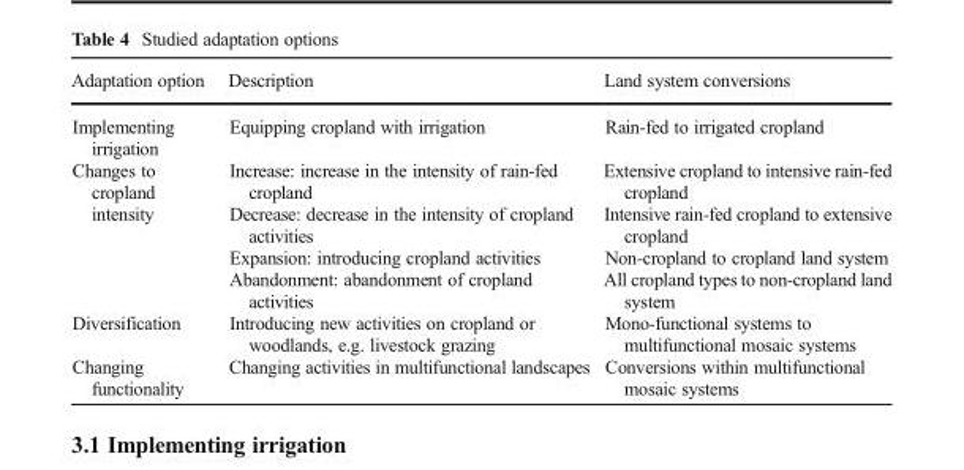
<table><thead><tr><td>Adaptation option</td><td>Description</td><td>Land system conversions</td></tr></thead><tbody><tr><td>Implementing irrigation</td><td>Equipping cropland with irrigation</td><td>Rain-fed to irrigated cropland</td></tr><tr><td rowspan="4">Changes to cropland intensity</td><td>Increase: increase in the intensity of rain-fed cropland</td><td>Extensive cropland to intensive rain-fed cropland</td></tr><tr><td>Decrease: decrease in the intensity of cropland activities</td><td>Intensive rain-fed cropland to extensive cropland</td></tr><tr><td>Expansion: introducing cropland activities</td><td>Non-cropland to cropland land system</td></tr><tr><td>Abandonment: abandonment of cropland activities</td><td>All cropland types to non-cropland land system</td></tr><tr><td>Diversification</td><td>Introducing new activities on cropland or woodlands, e.g. livestock grazing</td><td>Mono-functional systems to multifunctional mosaic systems</td></tr><tr><td>Changing functionality</td><td>Changing activities in multifunctional landscapes</td><td>Conversions within multifunctional mosaic systems</td></tr></tbody></table>